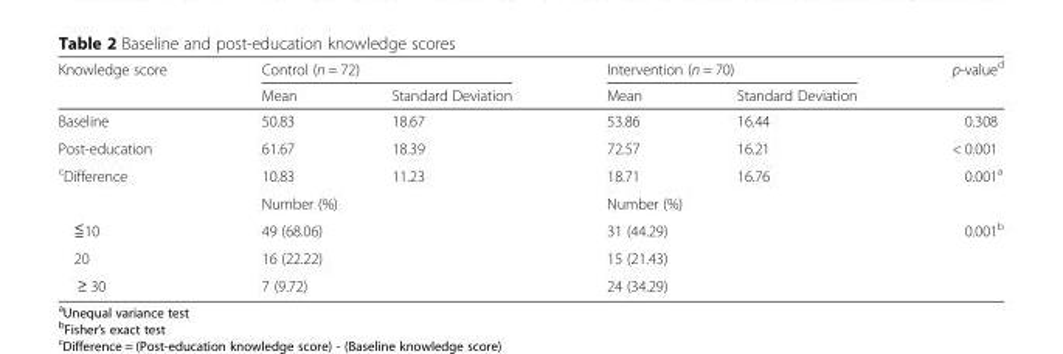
<table><thead><tr><td rowspan="2">Knowledge score</td><td colspan="2">Control (n = 72)</td><td colspan="2">Intervention (n = 70)</td><td rowspan="2">p-value<sup>d</sup></td></tr><tr><td>Mean</td><td>Standard Deviation</td><td>Mean</td><td>Standard Deviation</td></tr></thead><tbody><tr><td>Baseline</td><td>50.83</td><td>18.67</td><td>53.86</td><td>16.44</td><td>0.308</td></tr><tr><td>Post-education</td><td>61.67</td><td>18.39</td><td>72.57</td><td>16.21</td><td>&lt; 0.001</td></tr><tr><td rowspan="2"><sup>c</sup>Difference</td><td>10.83</td><td>11.23</td><td>18.71</td><td>16.76</td><td>0.001<sup>a</sup></td></tr><tr><td colspan="2">Number (%)</td><td colspan="2">Number (%)</td><td></td></tr><tr><td>≦10</td><td colspan="2">49 (68.06)</td><td colspan="2">31 (44.29)</td><td>0.001<sup>b</sup></td></tr><tr><td>20</td><td colspan="2">16 (22.22)</td><td colspan="2">15 (21.43)</td><td></td></tr><tr><td>≥ 30</td><td colspan="2">7 (9.72)</td><td colspan="2">24 (34.29)</td><td></td></tr></tbody></table>